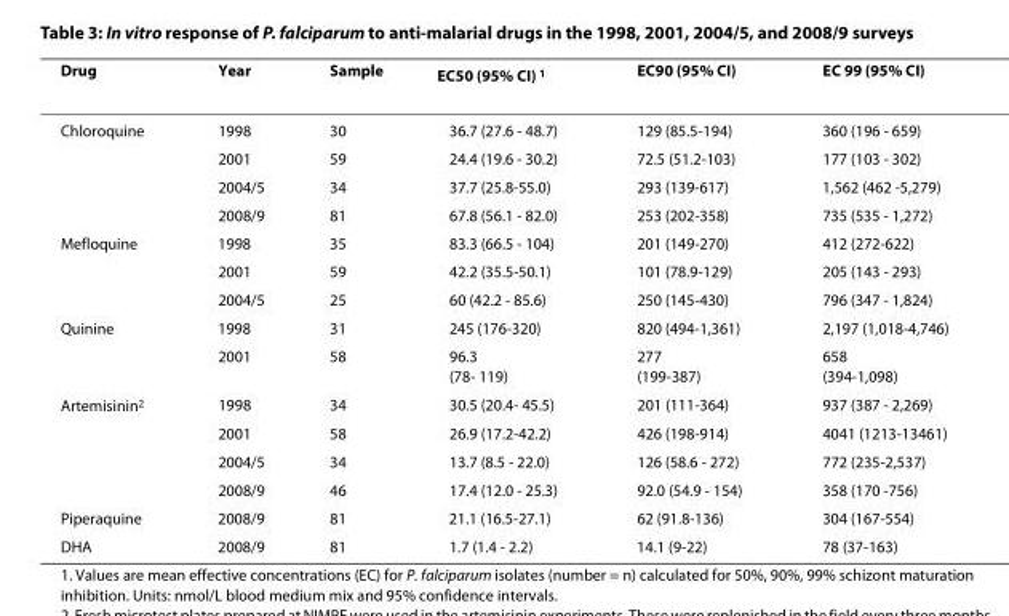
<table><thead><tr><td>Drug</td><td>Year</td><td>Sample</td><td>EC50 (95% CI) <sup>1</sup></td><td>EC90 (95% CI)</td><td>EC 99 (95% CI)</td></tr></thead><tbody><tr><td rowspan="4">Chloroquine</td><td>1998</td><td>30</td><td>36.7 (27.6 - 48.7)</td><td>129 (85.5-194)</td><td>360 (196 - 659)</td></tr><tr><td>2001</td><td>59</td><td>24.4 (19.6 - 30.2)</td><td>72.5 (51.2-103)</td><td>177 (103 - 302)</td></tr><tr><td>2004/5</td><td>34</td><td>37.7 (25.8-55.0)</td><td>293 (139-617)</td><td>1,562 (462 -5,279)</td></tr><tr><td>2008/9</td><td>81</td><td>67.8 (56.1 - 82.0)</td><td>253 (202-358)</td><td>735 (535 - 1,272)</td></tr><tr><td rowspan="3">Mefloquine</td><td>1998</td><td>35</td><td>83.3 (66.5 - 104)</td><td>201 (149-270)</td><td>412 (272-622)</td></tr><tr><td>2001</td><td>59</td><td>42.2 (35.5-50.1)</td><td>101 (78.9-129)</td><td>205 (143 - 293)</td></tr><tr><td>2004/5</td><td>25</td><td>60 (42.2 - 85.6)</td><td>250 (145-430)</td><td>796 (347 - 1,824)</td></tr><tr><td rowspan="2">Quinine</td><td>1998</td><td>31</td><td>245 (176-320)</td><td>820 (494-1,361)</td><td>2,197 (1,018-4,746)</td></tr><tr><td>2001</td><td>58</td><td>96.3 (78- 119)</td><td>277 (199-387)</td><td>658 (394-1,098)</td></tr><tr><td rowspan="4">Artemisinin<sup>2</sup></td><td>1998</td><td>34</td><td>30.5 (20.4- 45.5)</td><td>201 (111-364)</td><td>937 (387 - 2,269)</td></tr><tr><td>2001</td><td>58</td><td>26.9 (17.2-42.2)</td><td>426 (198-914)</td><td>4041 (1213-13461)</td></tr><tr><td>2004/5</td><td>34</td><td>13.7 (8.5 - 22.0)</td><td>126 (58.6 - 272)</td><td>772 (235-2,537)</td></tr><tr><td>2008/9</td><td>46</td><td>17.4 (12.0 - 25.3)</td><td>92.0 (54.9 - 154)</td><td>358 (170 -756)</td></tr><tr><td>Piperaquine</td><td>2008/9</td><td>81</td><td>21.1 (16.5-27.1)</td><td>62 (91.8-136)</td><td>304 (167-554)</td></tr><tr><td>DHA</td><td>2008/9</td><td>81</td><td>1.7 (1.4 - 2.2)</td><td>14.1 (9-22)</td><td>78 (37-163)</td></tr></tbody></table>